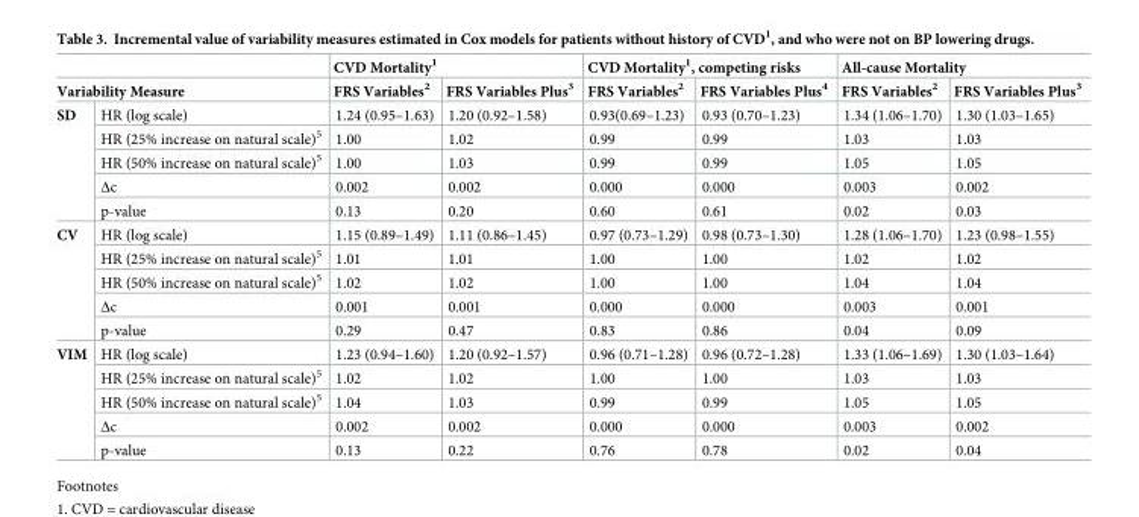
<table><thead><tr><td></td><td></td><td colspan="2">CVD Mortality<sup>1</sup></td><td colspan="2">CVD Mortality<sup>1</sup>, competing risks</td><td colspan="2">All-cause Mortality</td></tr><tr><td colspan="2">Variability Measure</td><td>FRS Variables<sup>2</sup></td><td>FRS Variables Plus<sup>3</sup></td><td>FRS Variables<sup>2</sup></td><td>FRS Variables Plus<sup>4</sup></td><td>FRS Variables<sup>2</sup></td><td>FRS Variables Plus<sup>3</sup></td></tr></thead><tbody><tr><td rowspan="5">SD</td><td>HR (log scale)</td><td>1.24 (0.95–1.63)</td><td>1.20 (0.92–1.58)</td><td>0.93(0.69–1.23)</td><td>0.93 (0.70–1.23)</td><td>1.34 (1.06–1.70)</td><td>1.30 (1.03–1.65)</td></tr><tr><td>HR (25% increase on natural scale)<sup>5</sup></td><td>1.00</td><td>1.02</td><td>0.99</td><td>0.99</td><td>1.03</td><td>1.03</td></tr><tr><td>HR (50% increase on natural scale)<sup>5</sup></td><td>1.00</td><td>1.03</td><td>0.99</td><td>0.99</td><td>1.05</td><td>1.05</td></tr><tr><td>Δc</td><td>0.002</td><td>0.002</td><td>0.000</td><td>0.000</td><td>0.003</td><td>0.002</td></tr><tr><td>p-value</td><td>0.13</td><td>0.20</td><td>0.60</td><td>0.61</td><td>0.02</td><td>0.03</td></tr><tr><td rowspan="5">CV</td><td>HR (log scale)</td><td>1.15 (0.89–1.49)</td><td>1.11 (0.86–1.45)</td><td>0.97 (0.73–1.29)</td><td>0.98 (0.73–1.30)</td><td>1.28 (1.06–1.70)</td><td>1.23 (0.98–1.55)</td></tr><tr><td>HR (25% increase on natural scale)<sup>5</sup></td><td>1.01</td><td>1.01</td><td>1.00</td><td>1.00</td><td>1.02</td><td>1.02</td></tr><tr><td>HR (50% increase on natural scale)<sup>5</sup></td><td>1.02</td><td>1.02</td><td>1.00</td><td>1.00</td><td>1.04</td><td>1.04</td></tr><tr><td>Δc</td><td>0.001</td><td>0.001</td><td>0.000</td><td>0.000</td><td>0.003</td><td>0.001</td></tr><tr><td>p-value</td><td>0.29</td><td>0.47</td><td>0.83</td><td>0.86</td><td>0.04</td><td>0.09</td></tr><tr><td rowspan="5">VIM</td><td>HR (log scale)</td><td>1.23 (0.94–1.60)</td><td>1.20 (0.92–1.57)</td><td>0.96 (0.71–1.28)</td><td>0.96 (0.72–1.28)</td><td>1.33 (1.06–1.69)</td><td>1.30 (1.03–1.64)</td></tr><tr><td>HR (25% increase on natural scale)<sup>5</sup></td><td>1.02</td><td>1.02</td><td>1.00</td><td>1.00</td><td>1.03</td><td>1.03</td></tr><tr><td>HR (50% increase on natural scale)<sup>5</sup></td><td>1.04</td><td>1.03</td><td>0.99</td><td>0.99</td><td>1.05</td><td>1.05</td></tr><tr><td>Δc</td><td>0.002</td><td>0.002</td><td>0.000</td><td>0.000</td><td>0.003</td><td>0.002</td></tr><tr><td>p-value</td><td>0.13</td><td>0.22</td><td>0.76</td><td>0.78</td><td>0.02</td><td>0.04</td></tr></tbody></table>